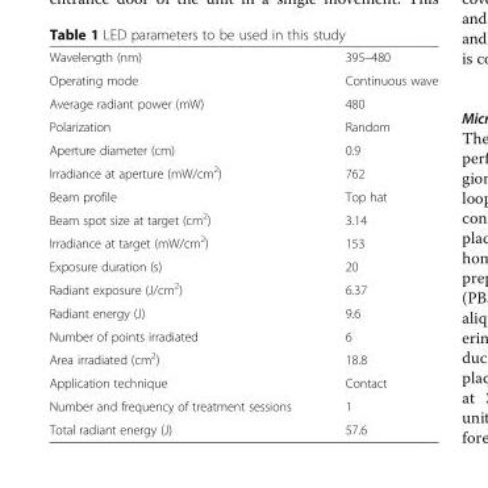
<table><tbody><tr><td>Wavelength (nm)</td><td>395–480</td></tr><tr><td>Operating mode</td><td>Continuous wave</td></tr><tr><td>Average radiant power (mW)</td><td>480</td></tr><tr><td>Polarization</td><td>Random</td></tr><tr><td>Aperture diameter (cm)</td><td>0.9</td></tr><tr><td>Irradiance at aperture (mW/cm<sup>2</sup>)</td><td>762</td></tr><tr><td>Beam profile</td><td>Top hat</td></tr><tr><td>Beam spot size at target (cm<sup>2</sup>)</td><td>3.14</td></tr><tr><td>Irradiance at target (mW/cm<sup>2</sup>)</td><td>153</td></tr><tr><td>Exposure duration (s)</td><td>20</td></tr><tr><td>Radiant exposure (J/cm<sup>2</sup>)</td><td>6.37</td></tr><tr><td>Radiant energy (J)</td><td>9.6</td></tr><tr><td>Number of points irradiated</td><td>6</td></tr><tr><td>Area irradiated (cm<sup>2</sup>)</td><td>18.8</td></tr><tr><td>Application technique</td><td>Contact</td></tr><tr><td>Number and frequency of treatment sessions</td><td>1</td></tr><tr><td>Total radiant energy (J)</td><td>57.6</td></tr></tbody></table>